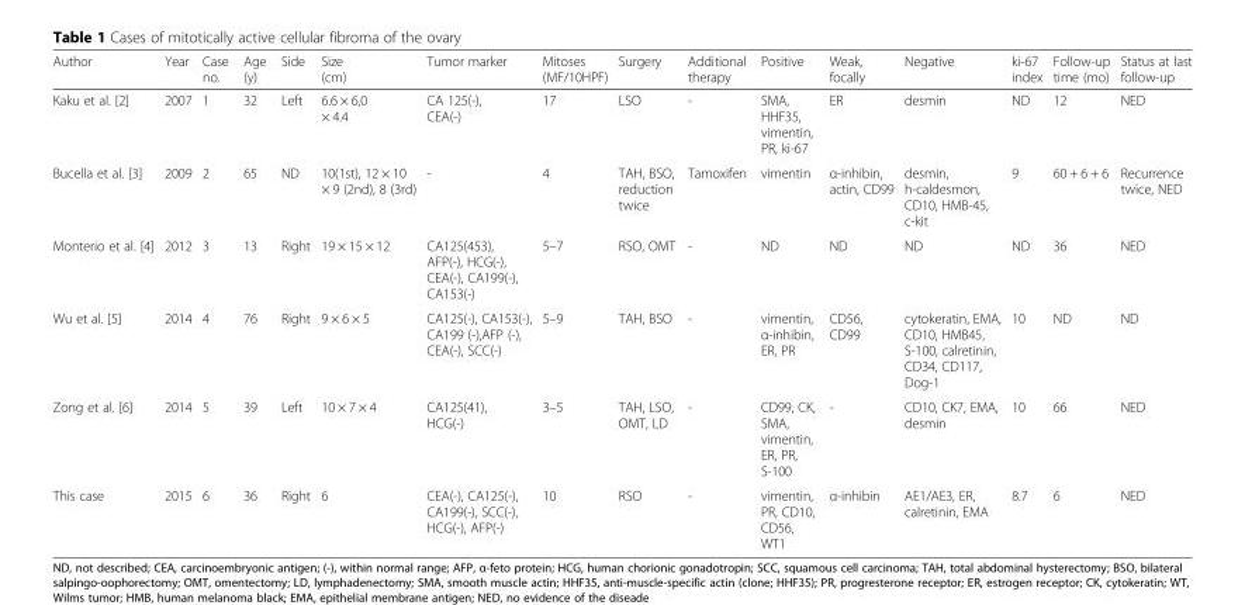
<table><thead><tr><td>Author</td><td>Year</td><td>Case no.</td><td>Age (y)</td><td>Side</td><td>Size (cm)</td><td>Tumor marker</td><td>Mitoses (MF/10HPF)</td><td>Surgery</td><td>Additional therapy</td><td>Positive</td><td>Weak, focally</td><td>Negative</td><td>ki-67 index</td><td>Follow-up time (mo)</td><td>Status at last follow-up</td></tr></thead><tbody><tr><td>Kaku et al. [2]</td><td>2007</td><td>1</td><td>32</td><td>Left</td><td>6.6 × 6,0 × 4.4</td><td>CA 125(-), CEA(-)</td><td>17</td><td>LSO</td><td>-</td><td>SMA, HHF35, vimentin, PR, ki-67</td><td>ER</td><td>desmin</td><td>ND</td><td>12</td><td>NED</td></tr><tr><td>Bucella et al. [3]</td><td>2009</td><td>2</td><td>65</td><td>ND</td><td>10(1st), 12 × 10 × 9 (2nd), 8 (3rd)</td><td>-</td><td>4</td><td>TAH, BSO, reduction twice</td><td>Tamoxifen</td><td>vimentin</td><td>α-inhibin, actin, CD99</td><td>desmin, h-caldesmon, CD10, HMB-45, c-kit</td><td>9</td><td>60 + 6 + 6</td><td>Recurrence twice, NED</td></tr><tr><td>Monterio et al. [4]</td><td>2012</td><td>3</td><td>13</td><td>Right</td><td>19 × 15 × 12</td><td>CA125(453), AFP(-), HCG(-), CEA(-), CA199(-), CA153(-)</td><td>5–7</td><td>RSO, OMT</td><td>-</td><td>ND</td><td>ND</td><td>ND</td><td>ND</td><td>36</td><td>NED</td></tr><tr><td>Wu et al. [5]</td><td>2014</td><td>4</td><td>76</td><td>Right</td><td>9 × 6 × 5</td><td>CA125(-), CA153(-), CA199 (-),AFP (-), CEA(-), SCC(-)</td><td>5–9</td><td>TAH, BSO</td><td>-</td><td>vimentin, α-inhibin, ER, PR</td><td>CD56, CD99</td><td>cytokeratin, EMA, CD10, HMB45, S-100, calretinin, CD34, CD117, Dog-1</td><td>10</td><td>ND</td><td>ND</td></tr><tr><td>Zong et al. [6]</td><td>2014</td><td>5</td><td>39</td><td>Left</td><td>10 × 7 × 4</td><td>CA125(41), HCG(-)</td><td>3–5</td><td>TAH, LSO, OMT, LD</td><td>-</td><td>CD99, CK, SMA, vimentin, ER, PR, S-100</td><td>-</td><td>CD10, CK7, EMA, desmin</td><td>10</td><td>66</td><td>NED</td></tr><tr><td>This case</td><td>2015</td><td>6</td><td>36</td><td>Right</td><td>6</td><td>CEA(-), CA125(-), CA199(-), SCC(-), HCG(-), AFP(-)</td><td>10</td><td>RSO</td><td>-</td><td>vimentin, PR, CD10, CD56, WT1</td><td>α-inhibin</td><td>AE1/AE3, ER, calretinin, EMA</td><td>8.7</td><td>6</td><td>NED</td></tr></tbody></table>